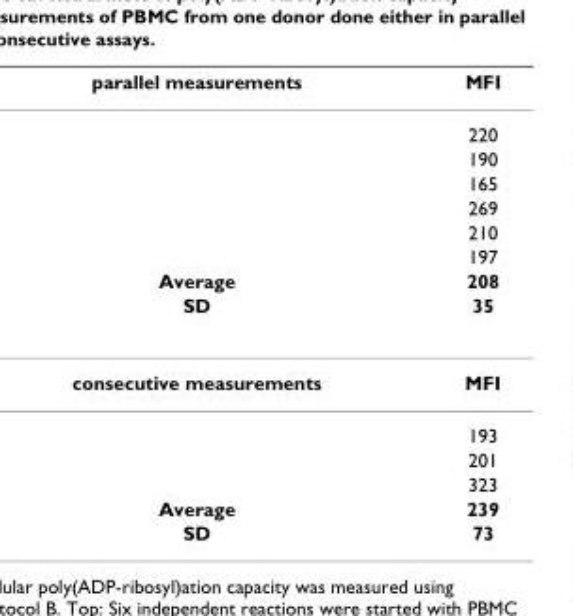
<table><thead><tr><td>parallel measurements</td><td>MFI</td></tr></thead><tbody><tr><td></td><td>220</td></tr><tr><td></td><td>190</td></tr><tr><td></td><td>165</td></tr><tr><td></td><td>269</td></tr><tr><td></td><td>210</td></tr><tr><td></td><td>197</td></tr><tr><td>Average</td><td>208</td></tr><tr><td>SD</td><td>35</td></tr><tr><td rowspan="4">consecutive measurements</td><td>MFI</td></tr><tr><td>193</td></tr><tr><td>201</td></tr><tr><td>323</td></tr><tr><td>Average</td><td>239</td></tr><tr><td>SD</td><td>73</td></tr></tbody></table>